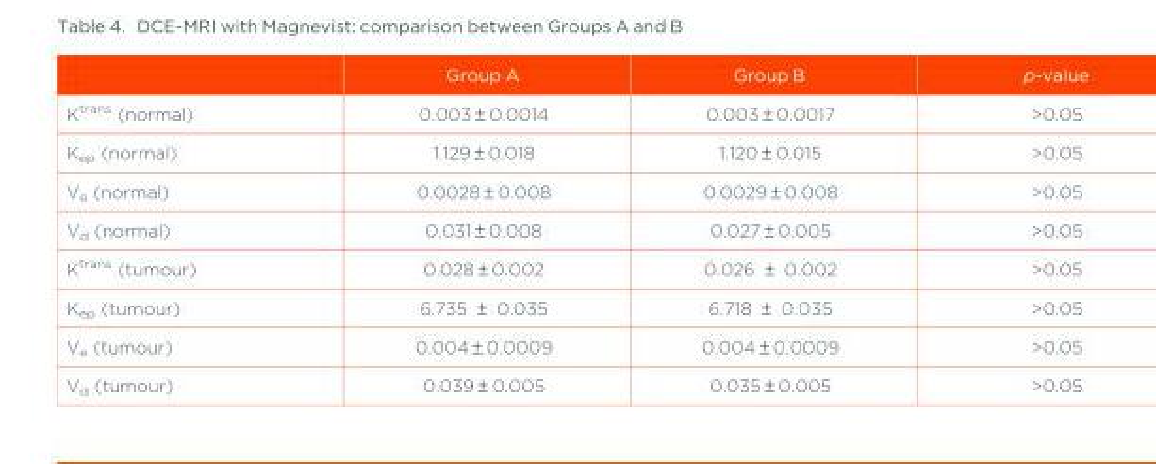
<table><thead><tr><td></td><td>Group A</td><td>Group B</td><td>p-value</td></tr></thead><tbody><tr><td>K<sup>trans</sup> (normal)</td><td>0.003 ± 0.0014</td><td>0.003 ± 0.0017</td><td>&gt;0.05</td></tr><tr><td>K<sub>ep</sub> (normal)</td><td>1.129 ± 0.018</td><td>1.120 ± 0.015</td><td>&gt;0.05</td></tr><tr><td>V<sub>e</sub> (normal)</td><td>0.0028 ± 0.008</td><td>0.0029 ± 0.008</td><td>&gt;0.05</td></tr><tr><td>V<sub>d</sub> (normal)</td><td>0.031 ± 0.008</td><td>0.027 ± 0.005</td><td>&gt;0.05</td></tr><tr><td>K<sup>trans</sup> (tumour)</td><td>0.028 ± 0.002</td><td>0.026 ± 0.002</td><td>&gt;0.05</td></tr><tr><td>K<sub>ep</sub> (tumour)</td><td>6.735 ± 0.035</td><td>6.718 ± 0.035</td><td>&gt;0.05</td></tr><tr><td>V<sub>e</sub> (tumour)</td><td>0.004 ± 0.0009</td><td>0.004 ± 0.0009</td><td>&gt;0.05</td></tr><tr><td>V<sub>d</sub> (tumour)</td><td>0.039 ± 0.005</td><td>0.035 ± 0.005</td><td>&gt;0.05</td></tr></tbody></table>